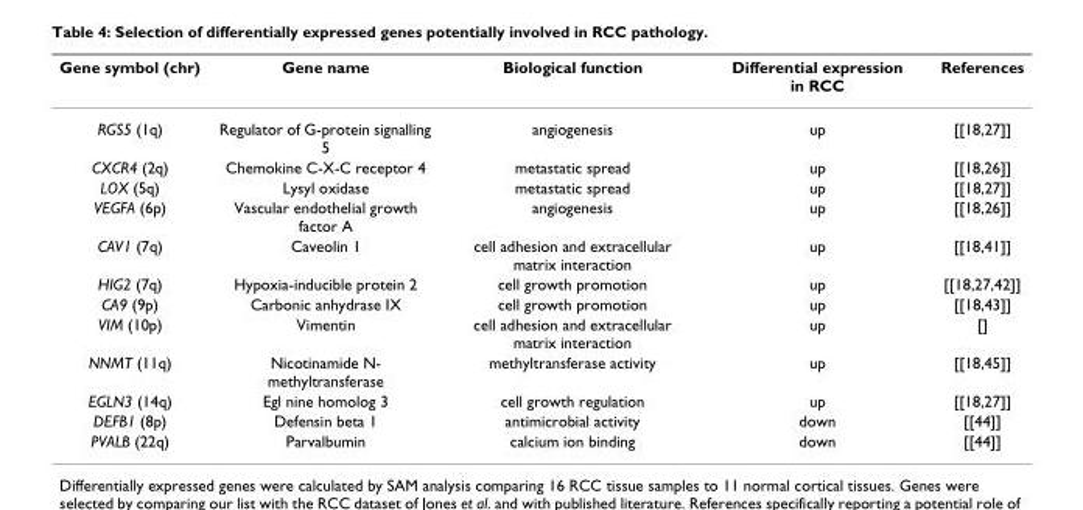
<table><thead><tr><td>Gene symbol (chr)</td><td>Gene name</td><td>Biological function</td><td>Differential expression in RCC</td><td>References</td></tr></thead><tbody><tr><td>RGS5 (1q)</td><td>Regulator of G-protein signalling 5</td><td>angiogenesis</td><td>up</td><td>[[18,27]]</td></tr><tr><td>CXCR4 (2q)</td><td>Chemokine C-X-C receptor 4</td><td>metastatic spread</td><td>up</td><td>[[18,26]]</td></tr><tr><td>LOX (5q)</td><td>Lysyl oxidase</td><td>metastatic spread</td><td>up</td><td>[[18,27]]</td></tr><tr><td>VEGFA (6p)</td><td>Vascular endothelial growth factor A</td><td>angiogenesis</td><td>up</td><td>[[18,26]]</td></tr><tr><td>CAV1 (7q)</td><td>Caveolin 1</td><td>cell adhesion and extracellular matrix interaction</td><td>up</td><td>[[18,41]]</td></tr><tr><td>HIG2 (7q)</td><td>Hypoxia-inducible protein 2</td><td>cell growth promotion</td><td>up</td><td>[[18,27,42]]</td></tr><tr><td>CA9 (9p)</td><td>Carbonic anhydrase IX</td><td>cell growth promotion</td><td>up</td><td>[[18,43]]</td></tr><tr><td>VIM (10p)</td><td>Vimentin</td><td>cell adhesion and extracellular matrix interaction</td><td>up</td><td>[]</td></tr><tr><td>NNMT (11q)</td><td>Nicotinamide N- methyltransferase</td><td>methyltransferase activity</td><td>up</td><td>[[18,45]]</td></tr><tr><td>EGLN3 (14q)</td><td>Egl nine homolog 3</td><td>cell growth regulation</td><td>up</td><td>[[18,27]]</td></tr><tr><td>DEFB1 (8p)</td><td>Defensin beta 1</td><td>antimicrobial activity</td><td>down</td><td>[[44]]</td></tr><tr><td>PVALB (22q)</td><td>Parvalbumin</td><td>calcium ion binding</td><td>down</td><td>[[44]]</td></tr></tbody></table>